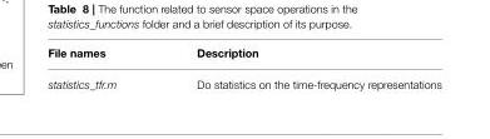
<table><thead><tr><td>File names</td><td>Description</td></tr></thead><tbody><tr><td>statistics_tfr.m</td><td>Do statistics on the time-frequency representations</td></tr></tbody></table>